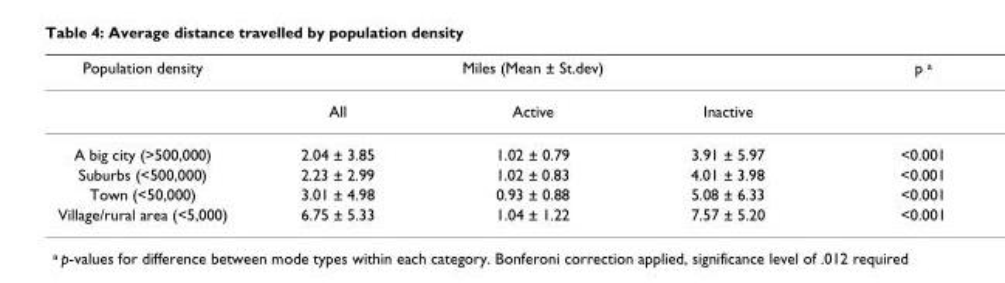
<table><thead><tr><td rowspan="2">Population density</td><td colspan="3">Miles (Mean ± St.dev)</td><td rowspan="2">p <sup>a</sup></td></tr><tr><td>All</td><td>Active</td><td>Inactive</td></tr></thead><tbody><tr><td>A big city (&gt;500,000)</td><td>2.04 ± 3.85</td><td>1.02 ± 0.79</td><td>3.91 ± 5.97</td><td>&lt;0.001</td></tr><tr><td>Suburbs (&lt;500,000)</td><td>2.23 ± 2.99</td><td>1.02 ± 0.83</td><td>4.01 ± 3.98</td><td>&lt;0.001</td></tr><tr><td>Town (&lt;50,000)</td><td>3.01 ± 4.98</td><td>0.93 ± 0.88</td><td>5.08 ± 6.33</td><td>&lt;0.001</td></tr><tr><td>Village/rural area (&lt;5,000)</td><td>6.75 ± 5.33</td><td>1.04 ± 1.22</td><td>7.57 ± 5.20</td><td>&lt;0.001</td></tr></tbody></table>